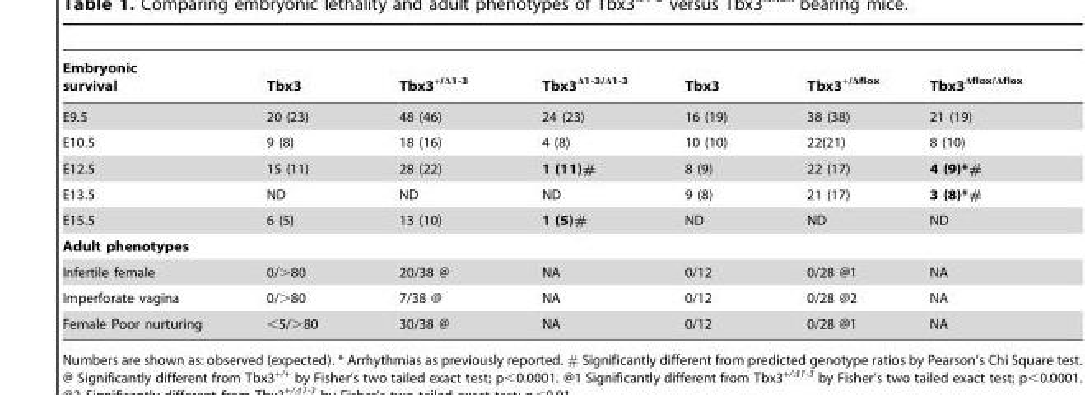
<table><thead><tr><td>Embryonic survival</td><td>Tbx3</td><td>Tbx3<sup>+/Δ1-3</sup></td><td>Tbx3<sup>Δ1-3/Δ1-3</sup></td><td>Tbx3</td><td>Tbx3<sup>+/Δflox</sup></td><td>Tbx3<sup>Δflox/Δflox</sup></td></tr></thead><tbody><tr><td>E9.5</td><td>20 (23)</td><td>48 (46)</td><td>24 (23)</td><td>16 (19)</td><td>38 (38)</td><td>21 (19)</td></tr><tr><td>E10.5</td><td>9 (8)</td><td>18 (16)</td><td>4 (8)</td><td>10 (10)</td><td>22(21)</td><td>8 (10)</td></tr><tr><td>E12.5</td><td>15 (11)</td><td>28 (22)</td><td>1 (11)#</td><td>8 (9)</td><td>22 (17)</td><td>4 (9)*#</td></tr><tr><td>E13.5</td><td>ND</td><td>ND</td><td>ND</td><td>9 (8)</td><td>21 (17)</td><td>3 (8)*#</td></tr><tr><td>E15.5</td><td>6 (5)</td><td>13 (10)</td><td>1 (5)#</td><td>ND</td><td>ND</td><td>ND</td></tr><tr><td colspan="7">Adult phenotypes</td></tr><tr><td>Infertile female</td><td>0/&gt;80</td><td>20/38 @</td><td>NA</td><td>0/12</td><td>0/28 @1</td><td>NA</td></tr><tr><td>Imperforate vagina</td><td>0/&gt;80</td><td>7/38 @</td><td>NA</td><td>0/12</td><td>0/28 @2</td><td>NA</td></tr><tr><td>Female Poor nurturing</td><td>&lt;5/&gt;80</td><td>30/38 @</td><td>NA</td><td>0/12</td><td>0/28 @1</td><td>NA</td></tr></tbody></table>